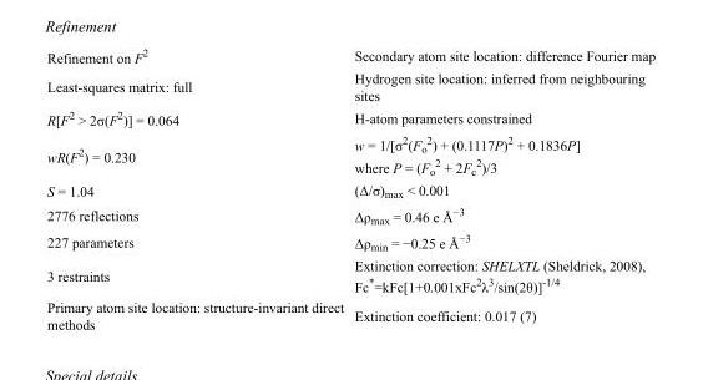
<table><tbody><tr><td>Refinement on F<sup>2</sup></td><td>Secondary atom site location: difference Fourier map</td></tr><tr><td>Least-squares matrix: full</td><td>Hydrogen site location: inferred from neighbouring sites</td></tr><tr><td>R[F<sup>2</sup> &gt; 2σ(F<sup>2</sup>)] = 0.064</td><td>H-atom parameters constrained</td></tr><tr><td>wR(F<sup>2</sup>) = 0.230</td><td>w = 1/[σ<sup>2</sup>(F<sub>o</sub> <sup>2</sup>) + (0.1117P)<sup>2</sup> + 0.1836P] where P = (F<sub>o</sub> <sup>2</sup> + 2F<sub>c</sub> <sup>2</sup>)/3</td></tr><tr><td>S = 1.04</td><td>(Δ/σ)<sub>max</sub> &lt; 0.001</td></tr><tr><td>2776 reflections</td><td>Δρ<sub>max</sub> = 0.46 e Å<sup>−3</sup></td></tr><tr><td>227 parameters</td><td>Δρ<sub>min</sub> = −0.25 e Å<sup>−3</sup></td></tr><tr><td>3 restraints</td><td>Extinction correction: SHELXTL (Sheldrick, 2008), Fc*=kFc[1+0.001xFc<sup>2</sup>λ<sup>3</sup>/sin(2θ)]<sup>-1/4</sup></td></tr><tr><td>Primary atom site location: structure-invariant direct methods</td><td>Extinction coefficient: 0.017 (7)</td></tr></tbody></table>